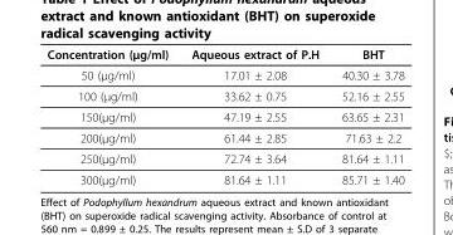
<table><thead><tr><td>Concentration (μg/ml)</td><td>Aqueous extract of P.H</td><td>BHT</td></tr></thead><tbody><tr><td>50 (μg/ml)</td><td>17.01 ± 2.08</td><td>40.30 ± 3.78</td></tr><tr><td>100 (μg/ml)</td><td>33.62 ± 0.75</td><td>52.16 ± 2.55</td></tr><tr><td>150(μg/ml)</td><td>47.19 ± 2.55</td><td>63.65 ± 2.31</td></tr><tr><td>200(μg/ml)</td><td>61.44 ± 2.85</td><td>71.63 ± 2.2</td></tr><tr><td>250(μg/ml)</td><td>72.74 ± 3.64</td><td>81.64 ± 1.11</td></tr><tr><td>300(μg/ml)</td><td>81.64 ± 1.11</td><td>85.71 ± 1.40</td></tr></tbody></table>